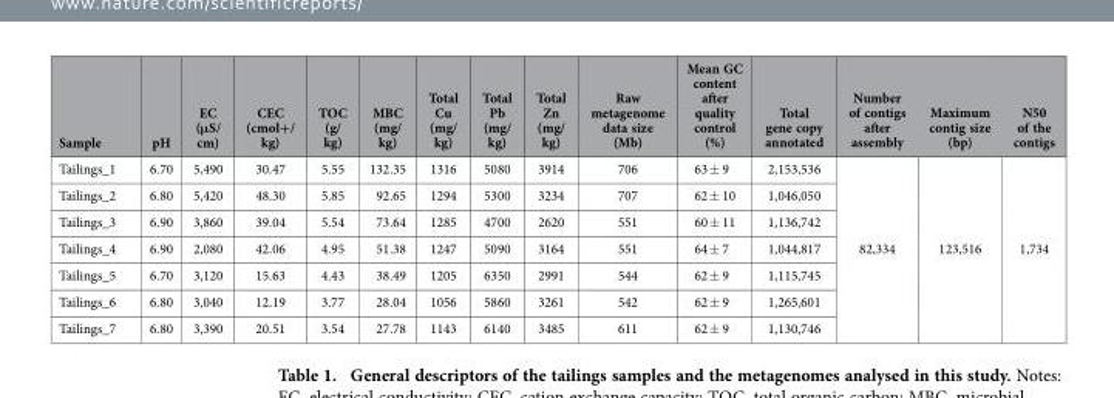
<table><thead><tr><td>Sample</td><td>pH</td><td>EC (μS/ cm)</td><td>CEC (cmol+/ kg)</td><td>TOC (g/ kg)</td><td>MBC (mg/ kg)</td><td>Total Cu (mg/ kg)</td><td>Total Pb (mg/ kg)</td><td>Total Zn (mg/ kg)</td><td>Raw metagenome data size (Mb)</td><td>Mean GC content after quality control (%)</td><td>Total gene copy annotated</td><td>Number of contigs after assembly</td><td>Maximum contig size (bp)</td><td>N50 of the contigs</td></tr></thead><tbody><tr><td>Tailings_1</td><td>6.70</td><td>5,490</td><td>30.47</td><td>5.55</td><td>132.35</td><td>1316</td><td>5080</td><td>3914</td><td>706</td><td>63 ± 9</td><td>2,153,536</td><td></td><td></td><td></td></tr><tr><td>Tailings_2</td><td>6.80</td><td>5,420</td><td>48.30</td><td>5.85</td><td>92.65</td><td>1294</td><td>5300</td><td>3234</td><td>707</td><td>62 ± 10</td><td>1,046,050</td><td></td><td></td><td></td></tr><tr><td>Tailings_3</td><td>6.90</td><td>3,860</td><td>39.04</td><td>5.54</td><td>73.64</td><td>1285</td><td>4700</td><td>2620</td><td>551</td><td>60 ± 11</td><td>1,136,742</td><td></td><td></td><td></td></tr><tr><td>Tailings_4</td><td>6.90</td><td>2,080</td><td>42.06</td><td>4.95</td><td>51.38</td><td>1247</td><td>5090</td><td>3164</td><td>551</td><td>64 ± 7</td><td>1,044,817</td><td>82,334</td><td>123,516</td><td>1,734</td></tr><tr><td>Tailings_5</td><td>6.70</td><td>3,120</td><td>15.63</td><td>4.43</td><td>38.49</td><td>1205</td><td>6350</td><td>2991</td><td>544</td><td>62 ± 9</td><td>1,115,745</td><td></td><td></td><td></td></tr><tr><td>Tailings_6</td><td>6.80</td><td>3,040</td><td>12.19</td><td>3.77</td><td>28.04</td><td>1056</td><td>5860</td><td>3261</td><td>542</td><td>62 ± 9</td><td>1,265,601</td><td></td><td></td><td></td></tr><tr><td>Tailings_7</td><td>6.80</td><td>3,390</td><td>20.51</td><td>3.54</td><td>27.78</td><td>1143</td><td>6140</td><td>3485</td><td>611</td><td>62 ± 9</td><td>1,130,746</td><td></td><td></td><td></td></tr></tbody></table>